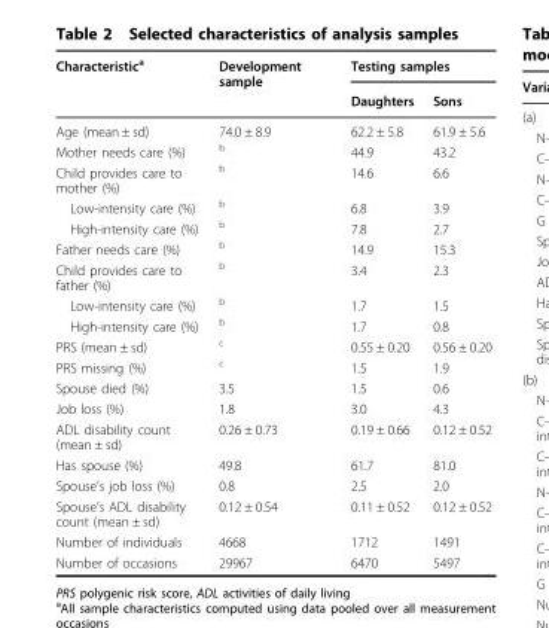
<table><thead><tr><td rowspan="2">Characteristic<sup>a</sup></td><td rowspan="2">Development sample</td><td colspan="2">Testing samples</td></tr><tr><td>Daughters</td><td>Sons</td></tr></thead><tbody><tr><td>Age (mean ± sd)</td><td>74.0 ± 8.9</td><td>62.2 ± 5.8</td><td>61.9 ± 5.6</td></tr><tr><td>Mother needs care (%)</td><td><sup>b</sup></td><td>44.9</td><td>43.2</td></tr><tr><td>Child provides care to mother (%)</td><td><sup>b</sup></td><td>14.6</td><td>6.6</td></tr><tr><td>Low-intensity care (%)</td><td><sup>b</sup></td><td>6.8</td><td>3.9</td></tr><tr><td>High-intensity care (%)</td><td><sup>b</sup></td><td>7.8</td><td>2.7</td></tr><tr><td>Father needs care (%)</td><td><sup>b</sup></td><td>14.9</td><td>15.3</td></tr><tr><td>Child provides care to father (%)</td><td><sup>b</sup></td><td>3.4</td><td>2.3</td></tr><tr><td>Low-intensity care (%)</td><td><sup>b</sup></td><td>1.7</td><td>1.5</td></tr><tr><td>High-intensity care (%)</td><td><sup>b</sup></td><td>1.7</td><td>0.8</td></tr><tr><td>PRS (mean ± sd)</td><td><sup>c</sup></td><td>0.55 ± 0.20</td><td>0.56 ± 0.20</td></tr><tr><td>PRS missing (%)</td><td><sup>c</sup></td><td>1.5</td><td>1.9</td></tr><tr><td>Spouse died (%)</td><td>3.5</td><td>1.5</td><td>0.6</td></tr><tr><td>Job loss (%)</td><td>1.8</td><td>3.0</td><td>4.3</td></tr><tr><td>ADL disability count (mean ± sd)</td><td>0.26 ± 0.73</td><td>0.19 ± 0.66</td><td>0.12 ± 0.52</td></tr><tr><td>Has spouse (%)</td><td>49.8</td><td>61.7</td><td>81.0</td></tr><tr><td>Spouse’s job loss (%)</td><td>0.8</td><td>2.5</td><td>2.0</td></tr><tr><td>Spouse’s ADL disability count (mean ± sd)</td><td>0.12 ± 0.54</td><td>0.11 ± 0.52</td><td>0.12 ± 0.52</td></tr><tr><td>Number of individuals</td><td>4668</td><td>1712</td><td>1491</td></tr><tr><td>Number of occasions</td><td>29967</td><td>6470</td><td>5497</td></tr></tbody></table>